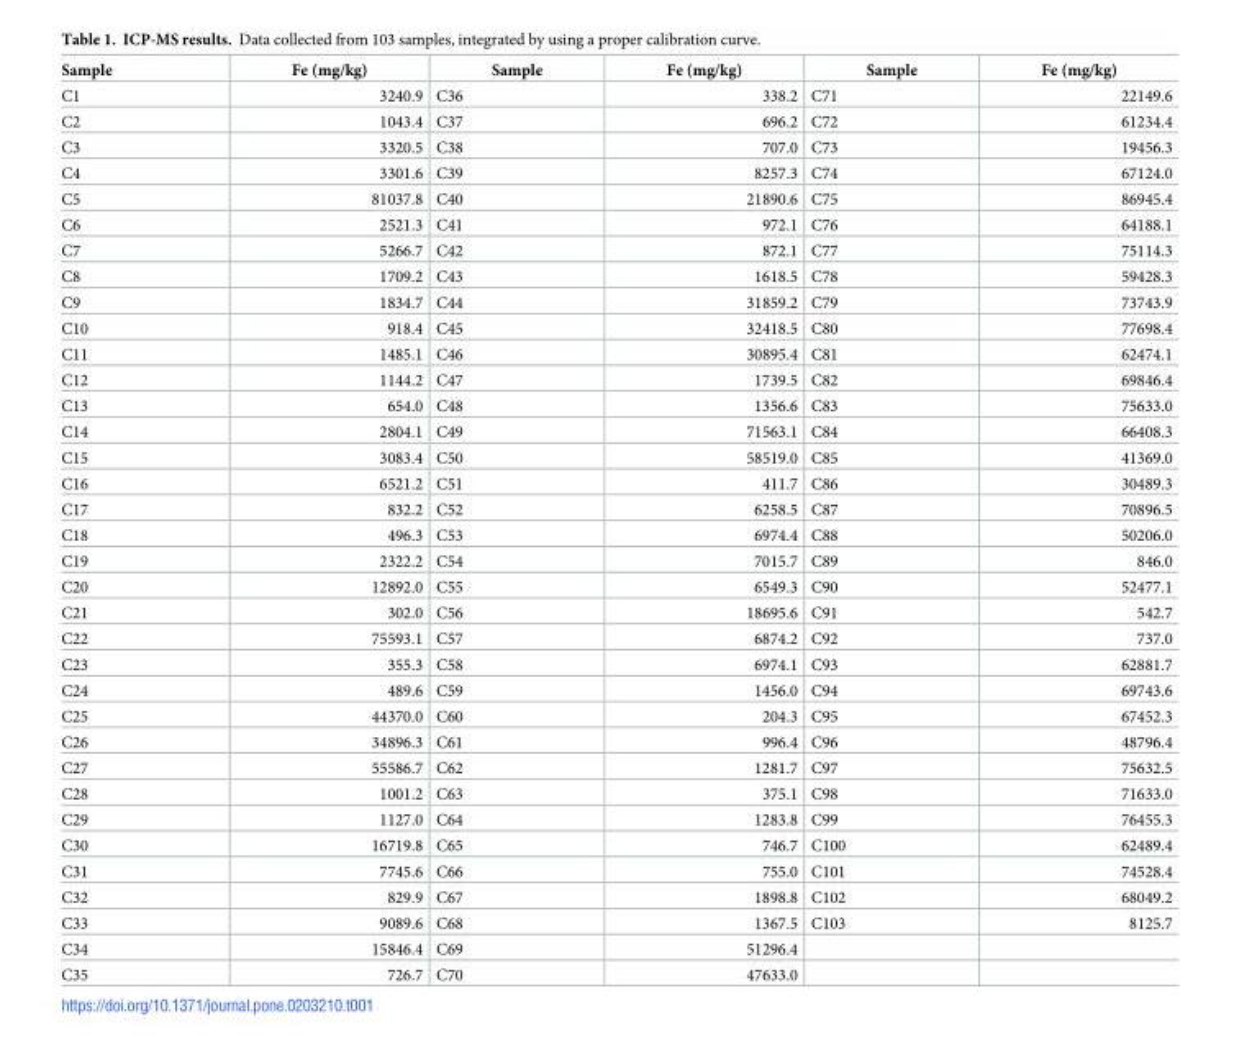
<table><thead><tr><td>Sample</td><td>Fe (mg/kg)</td><td>Sample</td><td>Fe (mg/kg)</td><td>Sample</td><td>Fe (mg/kg)</td></tr></thead><tbody><tr><td>C1</td><td>3240.9</td><td>C36</td><td>338.2</td><td>C71</td><td>22149.6</td></tr><tr><td>C2</td><td>1043.4</td><td>C37</td><td>696.2</td><td>C72</td><td>61234.4</td></tr><tr><td>C3</td><td>3320.5</td><td>C38</td><td>707.0</td><td>C73</td><td>19456.3</td></tr><tr><td>C4</td><td>3301.6</td><td>C39</td><td>8257.3</td><td>C74</td><td>67124.0</td></tr><tr><td>C5</td><td>81037.8</td><td>C40</td><td>21890.6</td><td>C75</td><td>86945.4</td></tr><tr><td>C6</td><td>2521.3</td><td>C41</td><td>972.1</td><td>C76</td><td>64188.1</td></tr><tr><td>C7</td><td>5266.7</td><td>C42</td><td>872.1</td><td>C77</td><td>75114.3</td></tr><tr><td>C8</td><td>1709.2</td><td>C43</td><td>1618.5</td><td>C78</td><td>59428.3</td></tr><tr><td>C9</td><td>1834.7</td><td>C44</td><td>31859.2</td><td>C79</td><td>73743.9</td></tr><tr><td>C10</td><td>918.4</td><td>C45</td><td>32418.5</td><td>C80</td><td>77698.4</td></tr><tr><td>C11</td><td>1485.1</td><td>C46</td><td>30895.4</td><td>C81</td><td>62474.1</td></tr><tr><td>C12</td><td>1144.2</td><td>C47</td><td>1739.5</td><td>C82</td><td>69846.4</td></tr><tr><td>C13</td><td>654.0</td><td>C48</td><td>1356.6</td><td>C83</td><td>75633.0</td></tr><tr><td>C14</td><td>2804.1</td><td>C49</td><td>71563.1</td><td>C84</td><td>66408.3</td></tr><tr><td>C15</td><td>3083.4</td><td>C50</td><td>58519.0</td><td>C85</td><td>41369.0</td></tr><tr><td>C16</td><td>6521.2</td><td>C51</td><td>411.7</td><td>C86</td><td>30489.3</td></tr><tr><td>C17</td><td>832.2</td><td>C52</td><td>6258.5</td><td>C87</td><td>70896.5</td></tr><tr><td>C18</td><td>496.3</td><td>C53</td><td>6974.4</td><td>C88</td><td>50206.0</td></tr><tr><td>C19</td><td>2322.2</td><td>C54</td><td>7015.7</td><td>C89</td><td>846.0</td></tr><tr><td>C20</td><td>12892.0</td><td>C55</td><td>6549.3</td><td>C90</td><td>52477.1</td></tr><tr><td>C21</td><td>302.0</td><td>C56</td><td>18695.6</td><td>C91</td><td>542.7</td></tr><tr><td>C22</td><td>75593.1</td><td>C57</td><td>6874.2</td><td>C92</td><td>737.0</td></tr><tr><td>C23</td><td>355.3</td><td>C58</td><td>6974.1</td><td>C93</td><td>62881.7</td></tr><tr><td>C24</td><td>489.6</td><td>C59</td><td>1456.0</td><td>C94</td><td>69743.6</td></tr><tr><td>C25</td><td>44370.0</td><td>C60</td><td>204.3</td><td>C95</td><td>67452.3</td></tr><tr><td>C26</td><td>34896.3</td><td>C61</td><td>996.4</td><td>C96</td><td>48796.4</td></tr><tr><td>C27</td><td>55586.7</td><td>C62</td><td>1281.7</td><td>C97</td><td>75632.5</td></tr><tr><td>C28</td><td>1001.2</td><td>C63</td><td>375.1</td><td>C98</td><td>71633.0</td></tr><tr><td>C29</td><td>1127.0</td><td>C64</td><td>1283.8</td><td>C99</td><td>76455.3</td></tr><tr><td>C30</td><td>16719.8</td><td>C65</td><td>746.7</td><td>C100</td><td>62489.4</td></tr><tr><td>C31</td><td>7745.6</td><td>C66</td><td>755.0</td><td>C101</td><td>74528.4</td></tr><tr><td>C32</td><td>829.9</td><td>C67</td><td>1898.8</td><td>C102</td><td>68049.2</td></tr><tr><td>C33</td><td>9089.6</td><td>C68</td><td>1367.5</td><td>C103</td><td>8125.7</td></tr><tr><td>C34</td><td>15846.4</td><td>C69</td><td>51296.4</td><td></td><td></td></tr><tr><td>C35</td><td>726.7</td><td>C70</td><td>47633.0</td><td></td><td></td></tr></tbody></table>